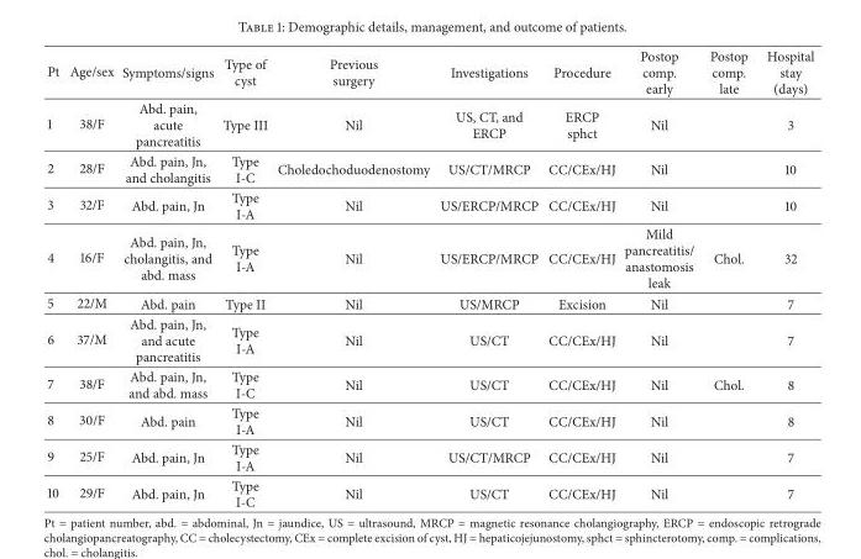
<table><thead><tr><td>Pt</td><td>Age/sex</td><td>Symptoms/signs</td><td>Type of cyst</td><td>Previous surgery</td><td>Investigations</td><td>Procedure</td><td>Postop comp. early</td><td>Postop comp. late</td><td>Hospital stay (days)</td></tr></thead><tbody><tr><td>1</td><td>38/F</td><td>Abd. pain, acute pancreatitis</td><td>Type III</td><td>Nil</td><td>US, CT, and ERCP</td><td>ERCP sphct</td><td>Nil</td><td></td><td>3</td></tr><tr><td>2</td><td>28/F</td><td>Abd. pain, Jn, and cholangitis</td><td>Type I-C</td><td>Choledochoduodenostomy</td><td>US/CT/MRCP</td><td>CC/CEx/HJ</td><td>Nil</td><td></td><td>10</td></tr><tr><td>3</td><td>32/F</td><td>Abd. pain, Jn</td><td>Type I-A</td><td>Nil</td><td>US/ERCP/MRCP</td><td>CC/CEx/HJ</td><td>Nil</td><td></td><td>10</td></tr><tr><td>4</td><td>16/F</td><td>Abd. pain, Jn, cholangitis, and abd. mass</td><td>Type I-A</td><td>Nil</td><td>US/ERCP/MRCP</td><td>CC/CEx/HJ</td><td>Mild pancreatitis/ anastomosis leak</td><td>Chol.</td><td>32</td></tr><tr><td>5</td><td>22/M</td><td>Abd. pain</td><td>Type II</td><td>Nil</td><td>US/MRCP</td><td>Excision</td><td>Nil</td><td></td><td>7</td></tr><tr><td>6</td><td>37/M</td><td>Abd. pain, Jn, and acute pancreatitis</td><td>Type I-A</td><td>Nil</td><td>US/CT</td><td>CC/CEx/HJ</td><td>Nil</td><td></td><td>7</td></tr><tr><td>7</td><td>38/F</td><td>Abd. pain, Jn, and abd. mass</td><td>Type I-C</td><td>Nil</td><td>US/CT</td><td>CC/CEx/HJ</td><td>Nil</td><td>Chol.</td><td>8</td></tr><tr><td>8</td><td>30/F</td><td>Abd. pain</td><td>Type I-A</td><td>Nil</td><td>US/CT</td><td>CC/CEx/HJ</td><td>Nil</td><td></td><td>8</td></tr><tr><td>9</td><td>25/F</td><td>Abd. pain, Jn</td><td>Type I-A</td><td>Nil</td><td>US/CT/MRCP</td><td>CC/CEx/HJ</td><td>Nil</td><td></td><td>7</td></tr><tr><td>10</td><td>29/F</td><td>Abd. pain, Jn</td><td>Type I-C</td><td>Nil</td><td>US/CT</td><td>CC/CEx/HJ</td><td>Nil</td><td></td><td>7</td></tr></tbody></table>